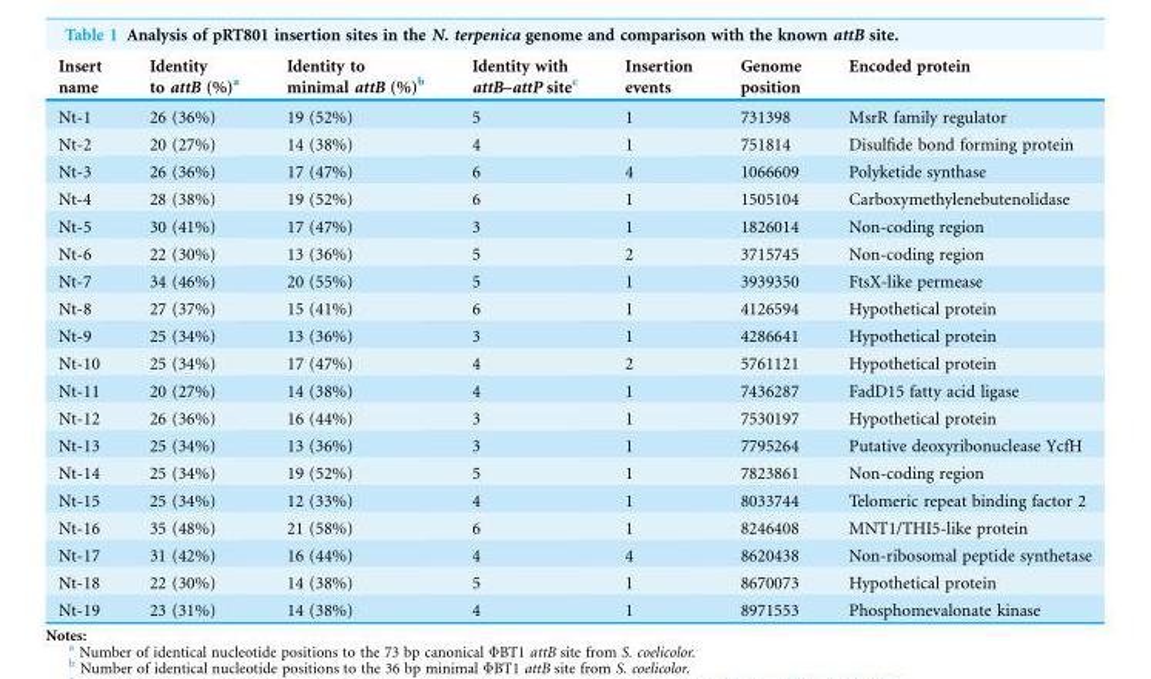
<table><thead><tr><td>Insert name</td><td>Identity to attB (%)<sup>a</sup></td><td>Identity to minimal attB (%)<sup>b</sup></td><td>Identity with attB–attP site<sup>c</sup></td><td>Insertion events</td><td>Genome position</td><td>Encoded protein</td></tr></thead><tbody><tr><td>Nt-1</td><td>26 (36%)</td><td>19 (52%)</td><td>5</td><td>1</td><td>731398</td><td>MsrR family regulator</td></tr><tr><td>Nt-2</td><td>20 (27%)</td><td>14 (38%)</td><td>4</td><td>1</td><td>751814</td><td>Disulfide bond forming protein</td></tr><tr><td>Nt-3</td><td>26 (36%)</td><td>17 (47%)</td><td>6</td><td>4</td><td>1066609</td><td>Polyketide synthase</td></tr><tr><td>Nt-4</td><td>28 (38%)</td><td>19 (52%)</td><td>6</td><td>1</td><td>1505104</td><td>Carboxymethylenebutenolidase</td></tr><tr><td>Nt-5</td><td>30 (41%)</td><td>17 (47%)</td><td>3</td><td>1</td><td>1826014</td><td>Non-coding region</td></tr><tr><td>Nt-6</td><td>22 (30%)</td><td>13 (36%)</td><td>5</td><td>2</td><td>3715745</td><td>Non-coding region</td></tr><tr><td>Nt-7</td><td>34 (46%)</td><td>20 (55%)</td><td>5</td><td>1</td><td>3939350</td><td>FtsX-like permease</td></tr><tr><td>Nt-8</td><td>27 (37%)</td><td>15 (41%)</td><td>6</td><td>1</td><td>4126594</td><td>Hypothetical protein</td></tr><tr><td>Nt-9</td><td>25 (34%)</td><td>13 (36%)</td><td>3</td><td>1</td><td>4286641</td><td>Hypothetical protein</td></tr><tr><td>Nt-10</td><td>25 (34%)</td><td>17 (47%)</td><td>4</td><td>2</td><td>5761121</td><td>Hypothetical protein</td></tr><tr><td>Nt-11</td><td>20 (27%)</td><td>14 (38%)</td><td>4</td><td>1</td><td>7436287</td><td>FadD15 fatty acid ligase</td></tr><tr><td>Nt-12</td><td>26 (36%)</td><td>16 (44%)</td><td>3</td><td>1</td><td>7530197</td><td>Hypothetical protein</td></tr><tr><td>Nt-13</td><td>25 (34%)</td><td>13 (36%)</td><td>3</td><td>1</td><td>7795264</td><td>Putative deoxyribonuclease YcfH</td></tr><tr><td>Nt-14</td><td>25 (34%)</td><td>19 (52%)</td><td>5</td><td>1</td><td>7823861</td><td>Non-coding region</td></tr><tr><td>Nt-15</td><td>25 (34%)</td><td>12 (33%)</td><td>4</td><td>1</td><td>8033744</td><td>Telomeric repeat binding factor 2</td></tr><tr><td>Nt-16</td><td>35 (48%)</td><td>21 (58%)</td><td>6</td><td>1</td><td>8246408</td><td>MNT1/THI5-like protein</td></tr><tr><td>Nt-17</td><td>31 (42%)</td><td>16 (44%)</td><td>4</td><td>4</td><td>8620438</td><td>Non-ribosomal peptide synthetase</td></tr><tr><td>Nt-18</td><td>22 (30%)</td><td>14 (38%)</td><td>5</td><td>1</td><td>8670073</td><td>Hypothetical protein</td></tr><tr><td>Nt-19</td><td>23 (31%)</td><td>14 (38%)</td><td>4</td><td>1</td><td>8971553</td><td>Phosphomevalonate kinase</td></tr></tbody></table>